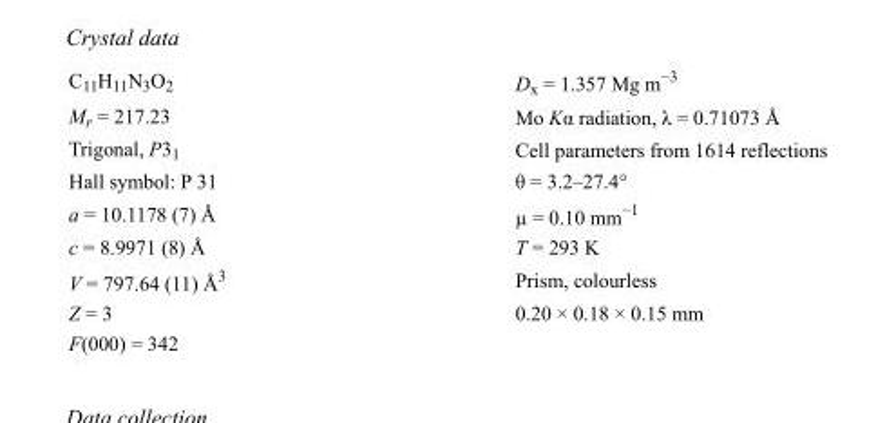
<table><tbody><tr><td>C<sub>11</sub>H<sub>11</sub>N<sub>3</sub>O<sub>2</sub></td><td>D<sub>x</sub> = 1.357 Mg m<sup>−3</sup></td></tr><tr><td>M<sub>r</sub> = 217.23</td><td>Mo Kα radiation, λ = 0.71073 Å</td></tr><tr><td>Trigonal, P3<sub>1</sub></td><td>Cell parameters from 1614 reflections</td></tr><tr><td>Hall symbol: P 31</td><td>θ = 3.2–27.4°</td></tr><tr><td>a = 10.1178 (7) Å</td><td>µ = 0.10 mm<sup>−1</sup></td></tr><tr><td>c = 8.9971 (8) Å</td><td>T = 293 K</td></tr><tr><td>V = 797.64 (11) Å<sup>3</sup></td><td>Prism, colourless</td></tr><tr><td>Z = 3</td><td>0.20 × 0.18 × 0.15 mm</td></tr><tr><td>F(000) = 342</td><td></td></tr></tbody></table>